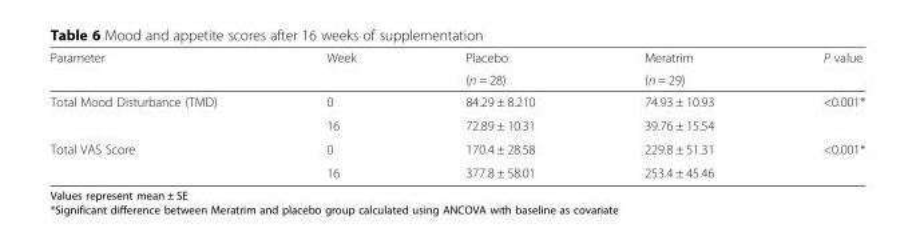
<table><thead><tr><td rowspan="2">Parameter</td><td rowspan="2">Week</td><td rowspan="2">Placebo (n = 28)</td><td rowspan="2">Meratrim (n = 29)</td><td rowspan="2">P value</td></tr><tr></tr></thead><tbody><tr><td rowspan="2">Total Mood Disturbance (TMD)</td><td>0</td><td>84.29 ± 8.210</td><td>74.93 ± 10.93</td><td>&lt;0.001*</td></tr><tr><td>16</td><td>72.89 ± 10.31</td><td>39.76 ± 15.54</td><td></td></tr><tr><td rowspan="2">Total VAS Score</td><td>0</td><td>170.4 ± 28.58</td><td>229.8 ± 51.31</td><td>&lt;0.001*</td></tr><tr><td>16</td><td>377.8 ± 58.01</td><td>253.4 ± 45.46</td><td></td></tr></tbody></table>